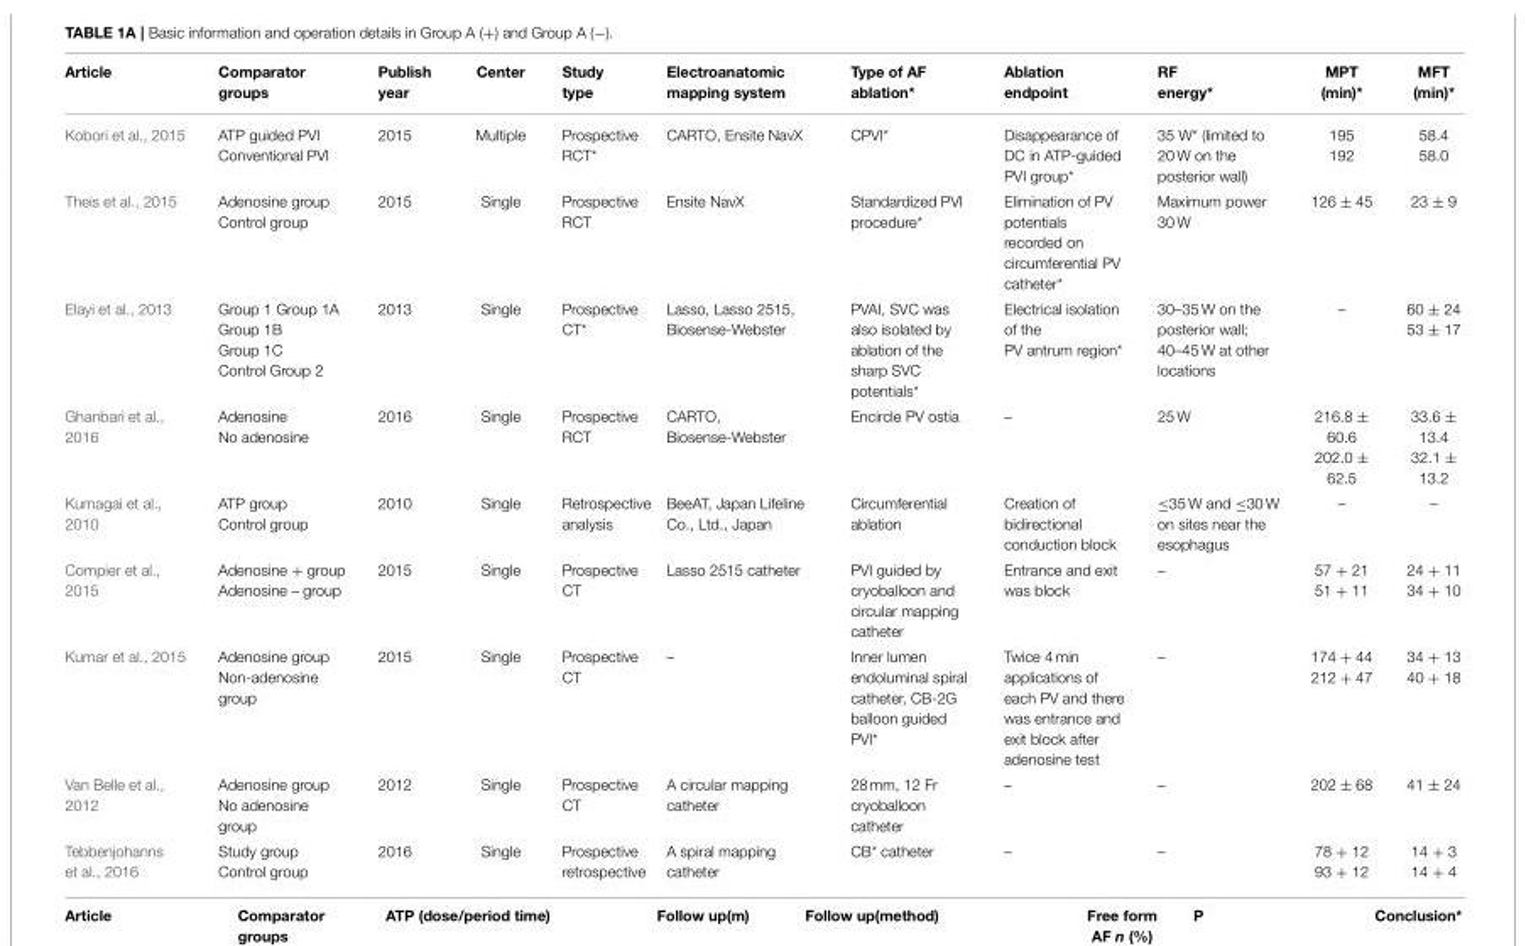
<table><thead><tr><td>Article</td><td>Comparator groups</td><td>Publish year</td><td>Center</td><td>Study type</td><td>Electroanatomic mapping system</td><td>Type of AF ablation*</td><td>Ablation endpoint</td><td>RF energy*</td><td>MPT (min)*</td><td>MFT (min)*</td></tr></thead><tbody><tr><td>Kobori et al., 2015</td><td>ATP guided PVI Conventional PVI</td><td>2015</td><td>Multiple</td><td>Prospective RCT*</td><td>CARTO, Ensite NavX</td><td>CPVI*</td><td>Disappearance of DC in ATP-guided PVI group*</td><td>35 W* (limited to 20 W on the posterior wall)</td><td>195 192</td><td>58.4 58.0</td></tr><tr><td>Theis et al., 2015</td><td>Adenosine group Control group</td><td>2015</td><td>Single</td><td>Prospective RCT</td><td>Ensite NavX</td><td>Standardized PVI procedure*</td><td>Elimination of PV potentials recorded on circumferential PV catheter*</td><td>Maximum power 30 W</td><td>126 ± 45</td><td>23 ± 9</td></tr><tr><td>Elayi et al., 2013</td><td>Group 1 Group 1A Group 1B Group 1C Control Group 2</td><td>2013</td><td>Single</td><td>Prospective CT*</td><td>Lasso, Lasso 2515, Biosense-Webster</td><td>PVAI, SVC was also isolated by ablation of the sharp SVC potentials*</td><td>Electrical isolation of the PV antrum region*</td><td>30–35 W on the posterior wall; 40–45 W at other locations</td><td>–</td><td>60 ± 24 53 ± 17</td></tr><tr><td>Ghanbari et al., 2016</td><td>Adenosine No adenosine</td><td>2016</td><td>Single</td><td>Prospective RCT</td><td>CARTO, Biosense-Webster</td><td>Encircle PV ostia</td><td>–</td><td>25 W</td><td>216.8 ± 60.6 202.0 ± 62.5</td><td>33.6 ± 13.4 32.1 ± 13.2</td></tr><tr><td>Kumagai et al., 2010</td><td>ATP group Control group</td><td>2010</td><td>Single</td><td>Retrospective analysis</td><td>BeeAT, Japan Lifeline Co., Ltd., Japan</td><td>Circumferential ablation</td><td>Creation of bidirectional conduction block</td><td>≤35 W and ≤30 W on sites near the esophagus</td><td>–</td><td>–</td></tr><tr><td>Compier et al., 2015</td><td>Adenosine + group Adenosine – group</td><td>2015</td><td>Single</td><td>Prospective CT</td><td>Lasso 2515 catheter</td><td>PVI guided by cryoballoon and circular mapping catheter</td><td>Entrance and exit was block</td><td>–</td><td>57 + 21 51 + 11</td><td>24 + 11 34 + 10</td></tr><tr><td>Kumar et al., 2015</td><td>Adenosine group Non-adenosine group</td><td>2015</td><td>Single</td><td>Prospective CT</td><td>–</td><td>Inner lumen endoluminal spiral catheter, CB-2G balloon guided PVI*</td><td>Twice 4 min applications of each PV and there was entrance and exit block after adenosine test</td><td>–</td><td>174 + 44 212 + 47</td><td>34 + 13 40 + 18</td></tr><tr><td>Van Belle et al., 2012</td><td>Adenosine group No adenosine group</td><td>2012</td><td>Single</td><td>Prospective CT</td><td>A circular mapping catheter</td><td>28 mm, 12 Fr cryoballoon catheter</td><td>–</td><td>–</td><td>202 ± 68</td><td>41 ± 24</td></tr><tr><td>Tebbenjohanns et al., 2016</td><td>Study group Control group</td><td>2016</td><td>Single</td><td>Prospective retrospective</td><td>A spiral mapping catheter</td><td>CB* catheter</td><td>–</td><td>–</td><td>78 + 12 93 + 12</td><td>14 + 3 14 + 4</td></tr></tbody></table>